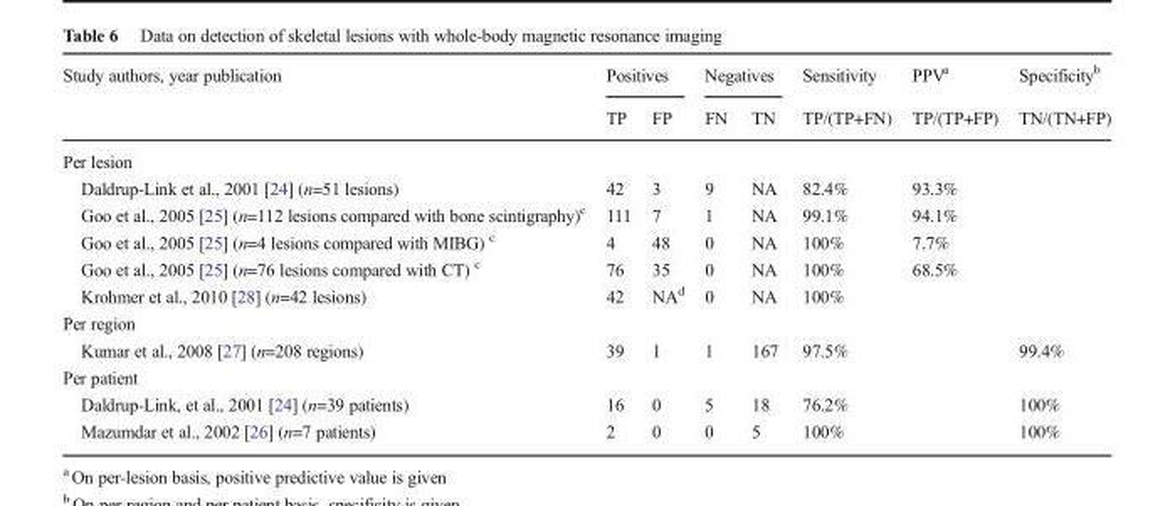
<table><thead><tr><td rowspan="2">Study authors, year publication</td><td colspan="2">Positives</td><td colspan="2">Negatives</td><td rowspan="2">Sensitivity TP/(TP+FN)</td><td rowspan="2">PPV<sup>a</sup> TP/(TP+FP)</td><td rowspan="2">Specificity<sup>b</sup> TN/(TN+FP)</td></tr><tr><td>TP</td><td>FP</td><td>FN</td><td>TN</td></tr></thead><tbody><tr><td colspan="8">Per lesion</td></tr><tr><td>Daldrup-Link et al., 2001 [24] (n=51 lesions)</td><td>42</td><td>3</td><td>9</td><td>NA</td><td>82.4%</td><td>93.3%</td><td></td></tr><tr><td>Goo et al., 2005 [25] (n=112 lesions compared with bone scintigraphy)<sup>c</sup></td><td>111</td><td>7</td><td>1</td><td>NA</td><td>99.1%</td><td>94.1%</td><td></td></tr><tr><td>Goo et al., 2005 [25] (n=4 lesions compared with MIBG) <sup>c</sup></td><td>4</td><td>48</td><td>0</td><td>NA</td><td>100%</td><td>7.7%</td><td></td></tr><tr><td>Goo et al., 2005 [25] (n=76 lesions compared with CT) <sup>c</sup></td><td>76</td><td>35</td><td>0</td><td>NA</td><td>100%</td><td>68.5%</td><td></td></tr><tr><td>Krohmer et al., 2010 [28] (n=42 lesions)</td><td>42</td><td>NA<sup>d</sup></td><td>0</td><td>NA</td><td>100%</td><td></td><td></td></tr><tr><td colspan="8">Per region</td></tr><tr><td>Kumar et al., 2008 [27] (n=208 regions)</td><td>39</td><td>1</td><td>1</td><td>167</td><td>97.5%</td><td></td><td>99.4%</td></tr><tr><td colspan="8">Per patient</td></tr><tr><td>Daldrup-Link, et al., 2001 [24] (n=39 patients)</td><td>16</td><td>0</td><td>5</td><td>18</td><td>76.2%</td><td></td><td>100%</td></tr><tr><td>Mazumdar et al., 2002 [26] (n=7 patients)</td><td>2</td><td>0</td><td>0</td><td>5</td><td>100%</td><td></td><td>100%</td></tr></tbody></table>